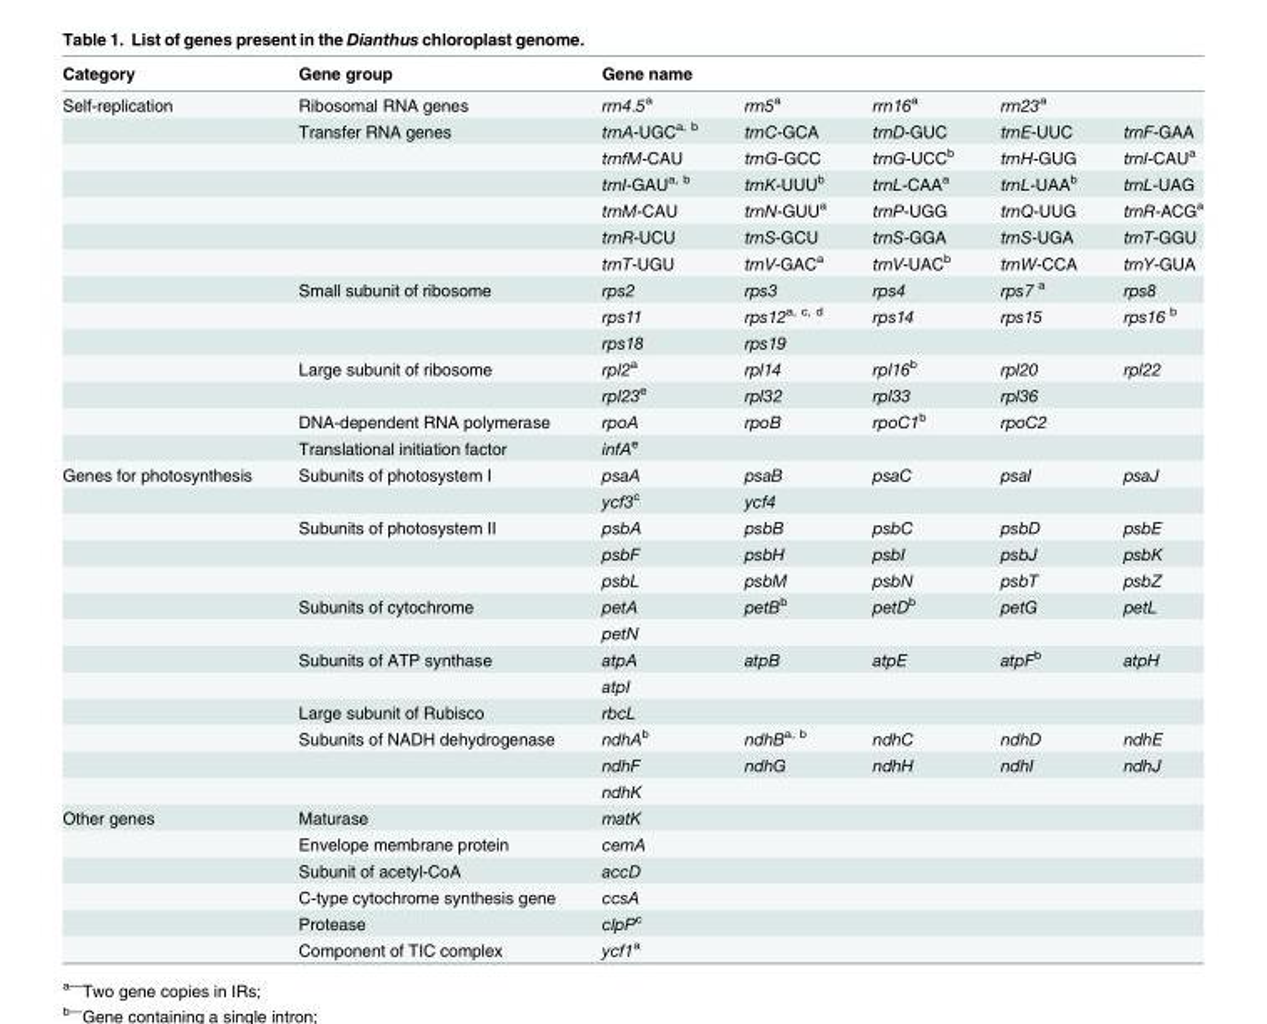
<table><thead><tr><td rowspan="2">Category Self-replication</td><td rowspan="2">Gene group Ribosomal RNA genes</td><td colspan="5">Gene name</td></tr><tr><td>rrn4.5<sup>a</sup></td><td>rrn5<sup>a</sup></td><td>rrn16<sup>a</sup></td><td>rrn23<sup>a</sup></td><td></td></tr></thead><tbody><tr><td></td><td>Transfer RNA genes</td><td>trnA-UGC<sup>a, b</sup></td><td>trnC-GCA</td><td>trnD-GUC</td><td>trnE-UUC</td><td>trnF-GAA</td></tr><tr><td></td><td></td><td>trnfM-CAU</td><td>trnG-GCC</td><td>trnG-UCC<sup>b</sup></td><td>trnH-GUG</td><td>trnI-CAU<sup>a</sup></td></tr><tr><td></td><td></td><td>trnI-GAU<sup>a, b</sup></td><td>trnK-UUU<sup>b</sup></td><td>trnL-CAA<sup>a</sup></td><td>trnL-UAA<sup>b</sup></td><td>trnL-UAG</td></tr><tr><td></td><td></td><td>trnM-CAU</td><td>trnN-GUU<sup>a</sup></td><td>trnP-UGG</td><td>trnQ-UUG</td><td>trnR-ACG<sup>a</sup></td></tr><tr><td></td><td></td><td>trnR-UCU</td><td>trnS-GCU</td><td>trnS-GGA</td><td>trnS-UGA</td><td>trnT-GGU</td></tr><tr><td></td><td></td><td>trnT-UGU</td><td>trnV-GAC<sup>a</sup></td><td>trnV-UAC<sup>b</sup></td><td>trnW-CCA</td><td>trnY-GUA</td></tr><tr><td></td><td>Small subunit of ribosome</td><td>rps2</td><td>rps3</td><td>rps4</td><td>rps7 <sup>a</sup></td><td>rps8</td></tr><tr><td></td><td></td><td>rps11</td><td>rps12<sup>a, c, d</sup></td><td>rps14</td><td>rps15</td><td>rps16 <sup>b</sup></td></tr><tr><td></td><td></td><td>rps18</td><td>rps19</td><td></td><td></td><td></td></tr><tr><td></td><td>Large subunit of ribosome</td><td>rpl2<sup>a</sup></td><td>rpl14</td><td>rpl16<sup>b</sup></td><td>rpl20</td><td>rpl22</td></tr><tr><td></td><td></td><td>rpl23<sup>e</sup></td><td>rpl32</td><td>rpl33</td><td>rpl36</td><td></td></tr><tr><td></td><td>DNA-dependent RNA polymerase</td><td>rpoA</td><td>rpoB</td><td>rpoC1<sup>b</sup></td><td>rpoC2</td><td></td></tr><tr><td></td><td>Translational initiation factor</td><td>infA<sup>e</sup></td><td></td><td></td><td></td><td></td></tr><tr><td rowspan="13">Genes for photosynthesis</td><td>Subunits of photosystem I</td><td>psaA</td><td>psaB</td><td>psaC</td><td>psaI</td><td>psaJ</td></tr><tr><td></td><td>ycf3<sup>c</sup></td><td>ycf4</td><td></td><td></td><td></td></tr><tr><td>Subunits of photosystem II</td><td>psbA</td><td>psbB</td><td>psbC</td><td>psbD</td><td>psbE</td></tr><tr><td></td><td>psbF</td><td>psbH</td><td>psbI</td><td>psbJ</td><td>psbK</td></tr><tr><td></td><td>psbL</td><td>psbM</td><td>psbN</td><td>psbT</td><td>psbZ</td></tr><tr><td>Subunits of cytochrome</td><td>petA</td><td>petB<sup>b</sup></td><td>petD<sup>b</sup></td><td>petG</td><td>petL</td></tr><tr><td></td><td>petN</td><td></td><td></td><td></td><td></td></tr><tr><td>Subunits of ATP synthase</td><td>atpA</td><td>atpB</td><td>atpE</td><td>atpF<sup>b</sup></td><td>atpH</td></tr><tr><td></td><td>atpI</td><td></td><td></td><td></td><td></td></tr><tr><td>Large subunit of Rubisco</td><td>rbcL</td><td></td><td></td><td></td><td></td></tr><tr><td>Subunits of NADH dehydrogenase</td><td>ndhA<sup>b</sup></td><td>ndhB<sup>a, b</sup></td><td>ndhC</td><td>ndhD</td><td>ndhE</td></tr><tr><td></td><td>ndhF</td><td>ndhG</td><td>ndhH</td><td>ndhI</td><td>ndhJ</td></tr><tr><td></td><td>ndhK</td><td></td><td></td><td></td><td></td></tr><tr><td rowspan="6">Other genes</td><td>Maturase</td><td>matK</td><td></td><td></td><td></td><td></td></tr><tr><td>Envelope membrane protein</td><td>cemA</td><td></td><td></td><td></td><td></td></tr><tr><td>Subunit of acetyl-CoA</td><td>accD</td><td></td><td></td><td></td><td></td></tr><tr><td>C-type cytochrome synthesis gene</td><td>ccsA</td><td></td><td></td><td></td><td></td></tr><tr><td>Protease</td><td>clpP<sup>c</sup></td><td></td><td></td><td></td><td></td></tr><tr><td>Component of TIC complex</td><td>ycf1<sup>a</sup></td><td></td><td></td><td></td><td></td></tr></tbody></table>